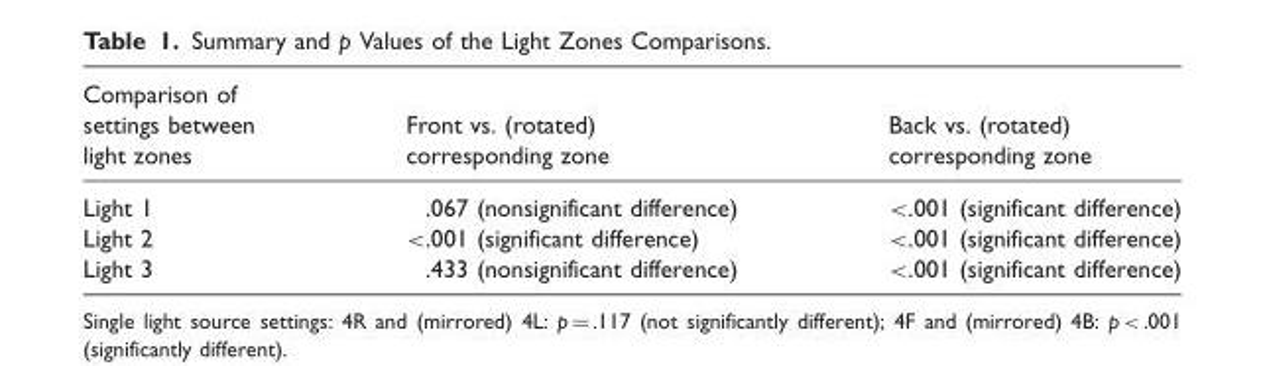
<table><thead><tr><td>Comparison of settings between light zones</td><td>Front vs. (rotated) corresponding zone</td><td>Back vs. (rotated) corresponding zone</td></tr></thead><tbody><tr><td>Light 1</td><td>.067 (nonsignificant difference)</td><td>&lt;.001 (significant difference)</td></tr><tr><td>Light 2</td><td>&lt;.001 (significant difference)</td><td>&lt;.001 (significant difference)</td></tr><tr><td>Light 3</td><td>.433 (nonsignificant difference)</td><td>&lt;.001 (significant difference)</td></tr></tbody></table>